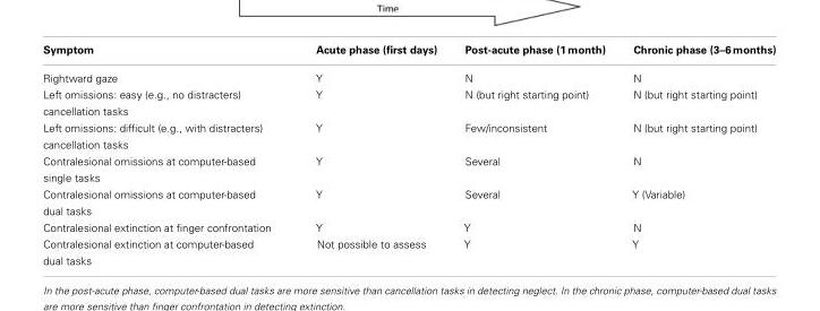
<table><thead><tr><td>Symptom</td><td>Acute phase (first days)</td><td>Post-acute phase (1 month)</td><td>Chronic phase (3–6 months)</td></tr></thead><tbody><tr><td>Rightward gaze</td><td>Y</td><td>N</td><td>N</td></tr><tr><td>Left omissions: easy (e.g., no distracters) cancellation tasks</td><td>Y</td><td>N (but right starting point)</td><td>N (but right starting point)</td></tr><tr><td>Left omissions: difficult (e.g., with distracters) cancellation tasks</td><td>Y</td><td>Few/inconsistent</td><td>N (but right starting point)</td></tr><tr><td>Contralesional omissions at computer-based single tasks</td><td>Y</td><td>Several</td><td>N</td></tr><tr><td>Contralesional omissions at computer-based dual tasks</td><td>Y</td><td>Several</td><td>Y (Variable)</td></tr><tr><td>Contralesional extinction at finger confrontation</td><td>Y</td><td>Y</td><td>N</td></tr><tr><td>Contralesional extinction at computer-based dual tasks</td><td>Not possible to assess</td><td>Y</td><td>Y</td></tr></tbody></table>